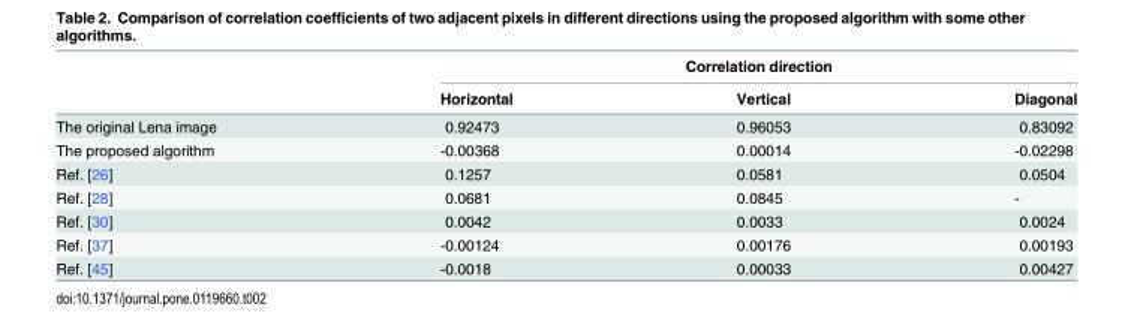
<table><thead><tr><td rowspan="2"></td><td colspan="3">Correlation direction</td></tr><tr><td>Horizontal</td><td>Vertical</td><td>Diagonal</td></tr></thead><tbody><tr><td>The original Lena image</td><td>0.92473</td><td>0.96053</td><td>0.83092</td></tr><tr><td>The proposed algorithm</td><td>-0.00368</td><td>0.00014</td><td>-0.02298</td></tr><tr><td>Ref. [26]</td><td>0.1257</td><td>0.0581</td><td>0.0504</td></tr><tr><td>Ref. [28]</td><td>0.0681</td><td>0.0845</td><td>-</td></tr><tr><td>Ref. [30]</td><td>0.0042</td><td>0.0033</td><td>0.0024</td></tr><tr><td>Ref. [37]</td><td>-0.00124</td><td>0.00176</td><td>0.00193</td></tr><tr><td>Ref. [45]</td><td>-0.0018</td><td>0.00033</td><td>0.00427</td></tr></tbody></table>